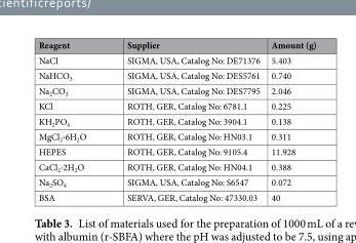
<table><thead><tr><td>Reagent</td><td>Supplier</td><td>Amount (g)</td></tr></thead><tbody><tr><td>NaCl</td><td>SIGMA, USA, Catalog No: DE71376</td><td>5.403</td></tr><tr><td>NaHCO<sub>3</sub></td><td>SIGMA, USA, Catalog No: DES5761</td><td>0.740</td></tr><tr><td>Na<sub>2</sub>CO<sub>3</sub></td><td>SIGMA, USA, Catalog No: DES7795</td><td>2.046</td></tr><tr><td>KCl</td><td>ROTH, GER, Catalog No: 6781.1</td><td>0.225</td></tr><tr><td>KH<sub>2</sub>PO<sub>4</sub></td><td>ROTH, GER, Catalog No: 3904.1</td><td>0.138</td></tr><tr><td>MgCl<sub>2</sub>⋅6H<sub>2</sub>O</td><td>ROTH, GER, Catalog No: HN03.1</td><td>0.311</td></tr><tr><td>HEPES</td><td>ROTH, GER, Catalog No: 9105.4</td><td>11.928</td></tr><tr><td>CaCl<sub>2</sub>⋅2H<sub>2</sub>O</td><td>ROTH, GER, Catalog No: HN04.1</td><td>0.388</td></tr><tr><td>Na<sub>2</sub>SO<sub>4</sub></td><td>SIGMA, USA, Catalog No: S6547</td><td>0.072</td></tr><tr><td>BSA</td><td>SERVA, GER, Catalog No: 47330.03</td><td>40</td></tr></tbody></table>